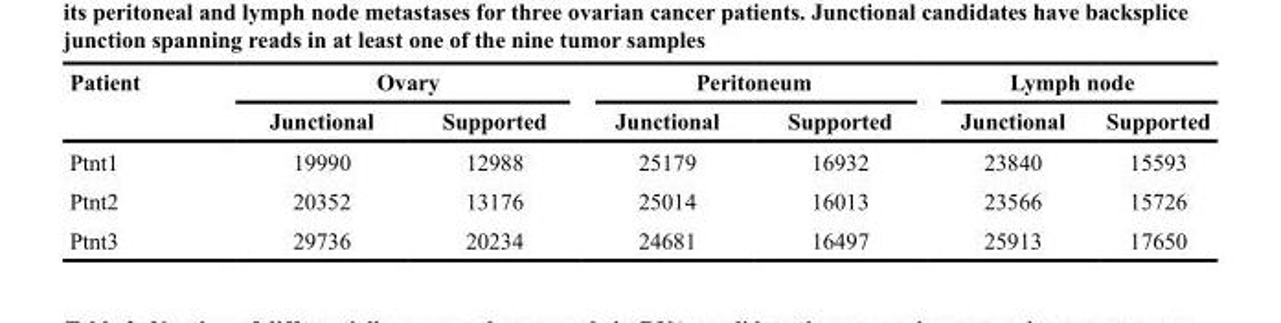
<table><thead><tr><td rowspan="2">Patient</td><td colspan="2">Ovary</td><td colspan="2">Peritoneum</td><td colspan="2">Lymph node</td></tr><tr><td>Junctional</td><td>Supported</td><td>Junctional</td><td>Supported</td><td>Junctional</td><td>Supported</td></tr></thead><tbody><tr><td>Ptnt1</td><td>19990</td><td>12988</td><td>25179</td><td>16932</td><td>23840</td><td>15593</td></tr><tr><td>Ptnt2</td><td>20352</td><td>13176</td><td>25014</td><td>16013</td><td>23566</td><td>15726</td></tr><tr><td>Ptnt3</td><td>29736</td><td>20234</td><td>24681</td><td>16497</td><td>25913</td><td>17650</td></tr></tbody></table>